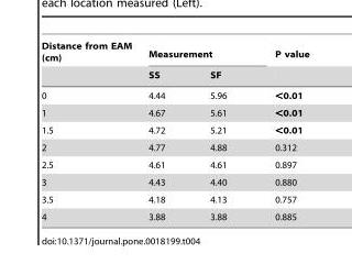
<table><thead><tr><td rowspan="2">Distance from EAM (cm)</td><td colspan="2">Measurement</td><td rowspan="2">P value</td></tr><tr><td>SS</td><td>SF</td></tr></thead><tbody><tr><td>0</td><td>4.44</td><td>5.96</td><td>&lt;0.01</td></tr><tr><td>1</td><td>4.67</td><td>5.61</td><td>&lt;0.01</td></tr><tr><td>1.5</td><td>4.72</td><td>5.21</td><td>&lt;0.01</td></tr><tr><td>2</td><td>4.77</td><td>4.88</td><td>0.312</td></tr><tr><td>2.5</td><td>4.61</td><td>4.61</td><td>0.897</td></tr><tr><td>3</td><td>4.43</td><td>4.40</td><td>0.880</td></tr><tr><td>3.5</td><td>4.18</td><td>4.13</td><td>0.757</td></tr><tr><td>4</td><td>3.88</td><td>3.88</td><td>0.885</td></tr></tbody></table>